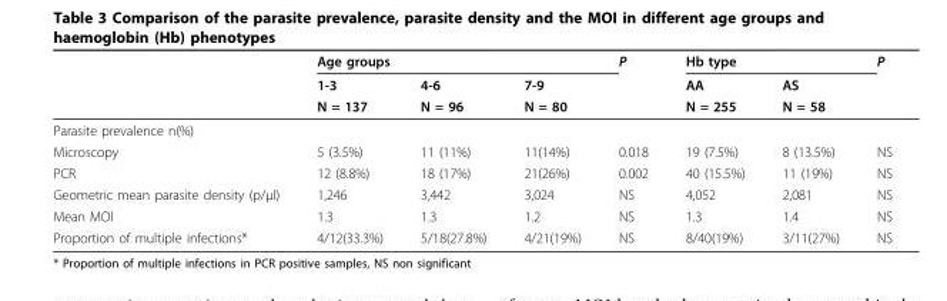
<table><thead><tr><td rowspan="3"></td><td colspan="3">Age groups</td><td rowspan="3">P</td><td colspan="2">Hb type</td><td rowspan="3">P</td></tr><tr><td rowspan="2">1-3 N = 137</td><td rowspan="2">4-6 N = 96</td><td rowspan="2">7-9 N = 80</td><td rowspan="2">AA N = 255</td><td rowspan="2">AS N = 58</td></tr><tr></tr></thead><tbody><tr><td colspan="8">Parasite prevalence n(%)</td></tr><tr><td>Microscopy</td><td>5 (3.5%)</td><td>11 (11%)</td><td>11(14%)</td><td>0.018</td><td>19 (7.5%)</td><td>8 (13.5%)</td><td>NS</td></tr><tr><td>PCR</td><td>12 (8.8%)</td><td>18 (17%)</td><td>21(26%)</td><td>0.002</td><td>40 (15.5%)</td><td>11 (19%)</td><td>NS</td></tr><tr><td>Geometric mean parasite density (p/μl)</td><td>1,246</td><td>3,442</td><td>3,024</td><td>NS</td><td>4,052</td><td>2,081</td><td>NS</td></tr><tr><td>Mean MOI</td><td>1.3</td><td>1.3</td><td>1.2</td><td>NS</td><td>1.3</td><td>1.4</td><td>NS</td></tr><tr><td>Proportion of multiple infections*</td><td>4/12(33.3%)</td><td>5/18(27.8%)</td><td>4/21(19%)</td><td>NS</td><td>8/40(19%)</td><td>3/11(27%)</td><td>NS</td></tr></tbody></table>